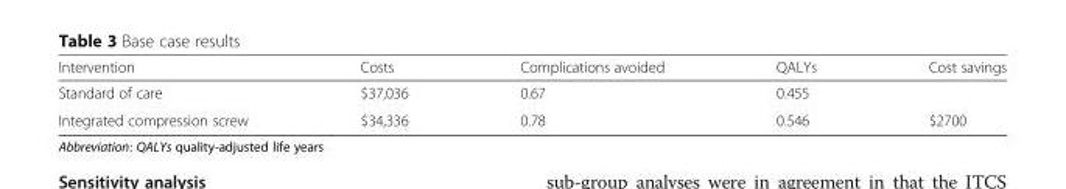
<table><thead><tr><td>Intervention</td><td>Costs</td><td>Complications avoided</td><td>QALYs</td><td>Cost savings</td></tr></thead><tbody><tr><td>Standard of care</td><td>$37,036</td><td>0.67</td><td>0.455</td><td></td></tr><tr><td>Integrated compression screw</td><td>$34,336</td><td>0.78</td><td>0.546</td><td>$2700</td></tr></tbody></table>